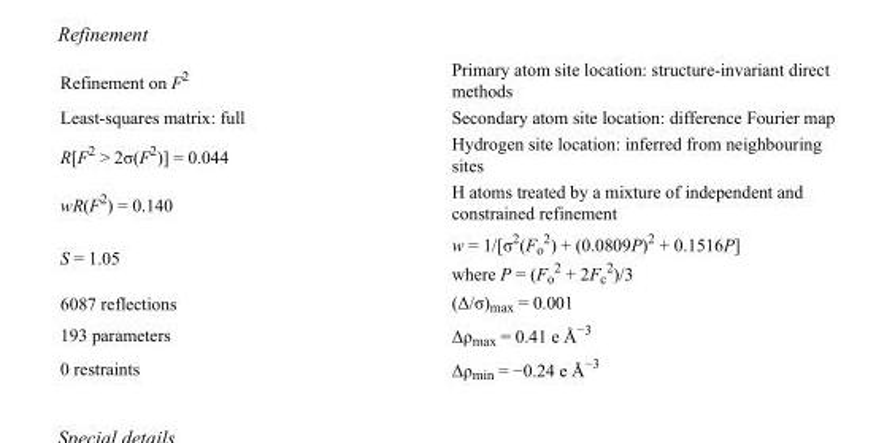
<table><tbody><tr><td>Refinement on F<sup>2</sup></td><td>Primary atom site location: structure-invariant direct methods</td></tr><tr><td>Least-squares matrix: full</td><td>Secondary atom site location: difference Fourier map</td></tr><tr><td>R[F<sup>2</sup> &gt; 2σ(F<sup>2</sup>)] = 0.044</td><td>Hydrogen site location: inferred from neighbouring sites</td></tr><tr><td>wR(F<sup>2</sup>) = 0.140</td><td>H atoms treated by a mixture of independent and constrained refinement</td></tr><tr><td>S = 1.05</td><td>w = 1/[σ<sup>2</sup>(F<sub>o</sub> <sup>2</sup>) + (0.0809P)<sup>2</sup> + 0.1516P] where P = (F<sub>o</sub> <sup>2</sup> + 2F<sub>c</sub> <sup>2</sup>)/3</td></tr><tr><td>6087 reflections</td><td>(Δ/σ)<sub>max</sub> = 0.001</td></tr><tr><td>193 parameters</td><td>Δρ<sub>max</sub> = 0.41 e Å<sup>−3</sup></td></tr><tr><td>0 restraints</td><td>Δρ<sub>min</sub> = −0.24 e Å<sup>−3</sup></td></tr></tbody></table>